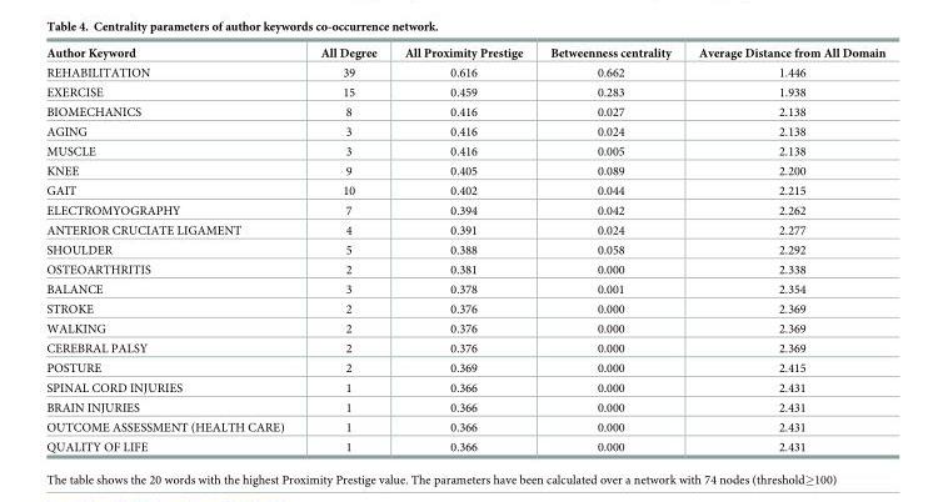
<table><thead><tr><td>Author Keyword</td><td>All Degree</td><td>All Proximity Prestige</td><td>Betweenness centrality</td><td>Average Distance from All Domain</td></tr></thead><tbody><tr><td>REHABILITATION</td><td>39</td><td>0.616</td><td>0.662</td><td>1.446</td></tr><tr><td>EXERCISE</td><td>15</td><td>0.459</td><td>0.283</td><td>1.938</td></tr><tr><td>BIOMECHANICS</td><td>8</td><td>0.416</td><td>0.027</td><td>2.138</td></tr><tr><td>AGING</td><td>3</td><td>0.416</td><td>0.024</td><td>2.138</td></tr><tr><td>MUSCLE</td><td>3</td><td>0.416</td><td>0.005</td><td>2.138</td></tr><tr><td>KNEE</td><td>9</td><td>0.405</td><td>0.089</td><td>2.200</td></tr><tr><td>GAIT</td><td>10</td><td>0.402</td><td>0.044</td><td>2.215</td></tr><tr><td>ELECTROMYOGRAPHY</td><td>7</td><td>0.394</td><td>0.042</td><td>2.262</td></tr><tr><td>ANTERIOR CRUCIATE LIGAMENT</td><td>4</td><td>0.391</td><td>0.024</td><td>2.277</td></tr><tr><td>SHOULDER</td><td>5</td><td>0.388</td><td>0.058</td><td>2.292</td></tr><tr><td>OSTEOARTHRITIS</td><td>2</td><td>0.381</td><td>0.000</td><td>2.338</td></tr><tr><td>BALANCE</td><td>3</td><td>0.378</td><td>0.001</td><td>2.354</td></tr><tr><td>STROKE</td><td>2</td><td>0.376</td><td>0.000</td><td>2.369</td></tr><tr><td>WALKING</td><td>2</td><td>0.376</td><td>0.000</td><td>2.369</td></tr><tr><td>CEREBRAL PALSY</td><td>2</td><td>0.376</td><td>0.000</td><td>2.369</td></tr><tr><td>POSTURE</td><td>2</td><td>0.369</td><td>0.000</td><td>2.415</td></tr><tr><td>SPINAL CORD INJURIES</td><td>1</td><td>0.366</td><td>0.000</td><td>2.431</td></tr><tr><td>BRAIN INJURIES</td><td>1</td><td>0.366</td><td>0.000</td><td>2.431</td></tr><tr><td>OUTCOME ASSESSMENT (HEALTH CARE)</td><td>1</td><td>0.366</td><td>0.000</td><td>2.431</td></tr><tr><td>QUALITY OF LIFE</td><td>1</td><td>0.366</td><td>0.000</td><td>2.431</td></tr></tbody></table>